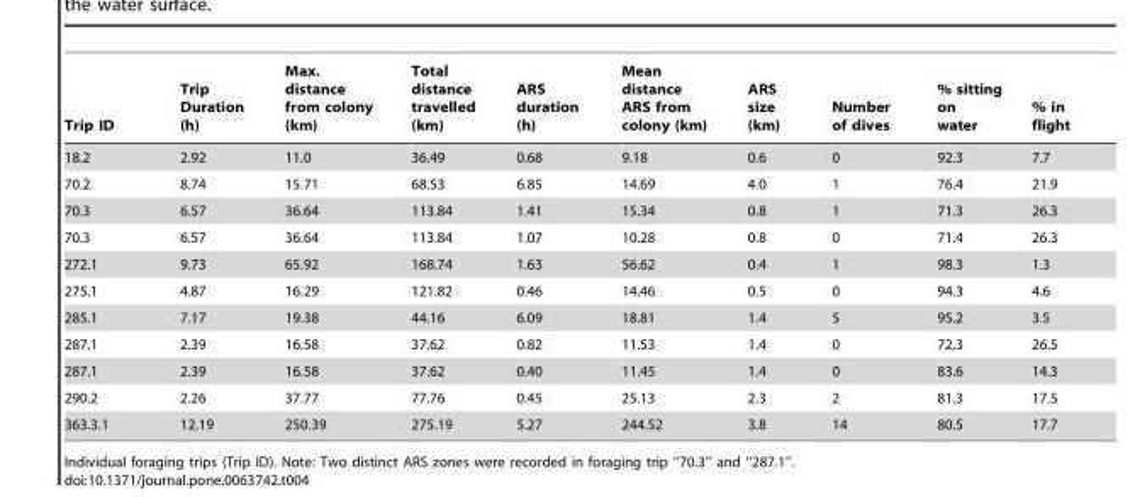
<table><thead><tr><td>Trip ID</td><td>Trip Duration (h)</td><td>Max. distance from colony (km)</td><td>Total distance travelled (km)</td><td>ARS duration (h)</td><td>Mean distance ARS from colony (km)</td><td>ARS size (km)</td><td>Number of dives</td><td>% sitting on water</td><td>% in flight</td></tr></thead><tbody><tr><td>18.2</td><td>2.92</td><td>11.0</td><td>36.49</td><td>0.68</td><td>9.18</td><td>0.6</td><td>0</td><td>92.3</td><td>7.7</td></tr><tr><td>70.2</td><td>8.74</td><td>15.71</td><td>68.53</td><td>6.85</td><td>14.69</td><td>4.0</td><td>1</td><td>76.4</td><td>21.9</td></tr><tr><td>70.3</td><td>6.57</td><td>36.64</td><td>113.84</td><td>1.41</td><td>15.34</td><td>0.8</td><td>1</td><td>71.3</td><td>26.3</td></tr><tr><td>70.3</td><td>6.57</td><td>36.64</td><td>113.84</td><td>1.07</td><td>10.28</td><td>0.8</td><td>0</td><td>71.4</td><td>26.3</td></tr><tr><td>272.1</td><td>9.73</td><td>65.92</td><td>168.74</td><td>1.63</td><td>56.62</td><td>0.4</td><td>1</td><td>98.3</td><td>1.3</td></tr><tr><td>275.1</td><td>4.87</td><td>16.29</td><td>121.82</td><td>0.46</td><td>14.46</td><td>0.5</td><td>0</td><td>94.3</td><td>4.6</td></tr><tr><td>285.1</td><td>7.17</td><td>19.38</td><td>44.16</td><td>6.09</td><td>18.81</td><td>1.4</td><td>5</td><td>95.2</td><td>3.5</td></tr><tr><td>287.1</td><td>2.39</td><td>16.58</td><td>37.62</td><td>0.82</td><td>11.53</td><td>1.4</td><td>0</td><td>72.3</td><td>26.5</td></tr><tr><td>287.1</td><td>2.39</td><td>16.58</td><td>37.62</td><td>0.40</td><td>11.45</td><td>1.4</td><td>0</td><td>83.6</td><td>14.3</td></tr><tr><td>290.2</td><td>2.26</td><td>37.77</td><td>77.76</td><td>0.45</td><td>25.13</td><td>2.3</td><td>2</td><td>81.3</td><td>17.5</td></tr><tr><td>363.3.1</td><td>12.19</td><td>250.39</td><td>275.19</td><td>5.27</td><td>244.52</td><td>3.8</td><td>14</td><td>80.5</td><td>17.7</td></tr></tbody></table>